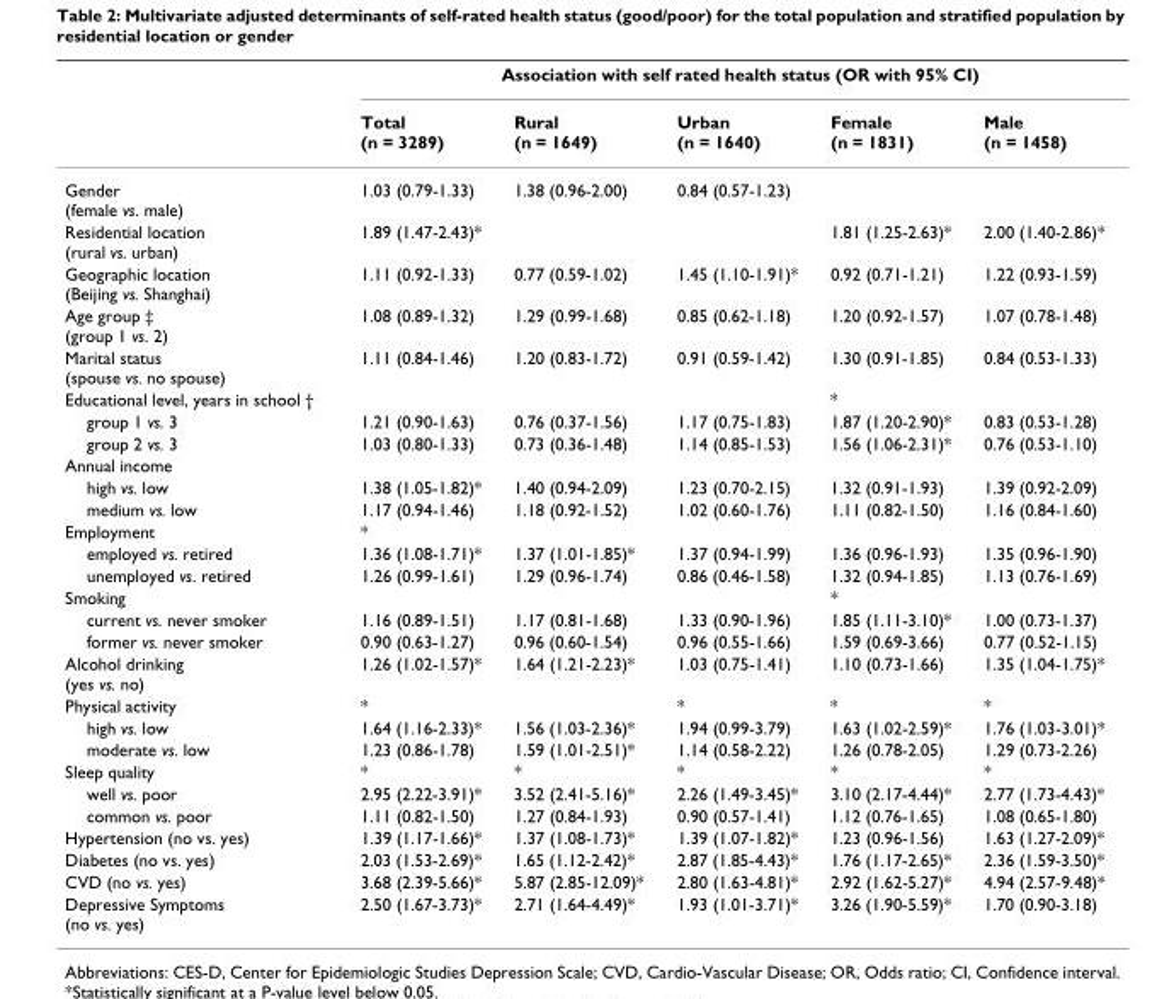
<table><thead><tr><td rowspan="2"></td><td colspan="5">Association with self rated health status (OR with 95% CI)</td></tr><tr><td>Total (n = 3289)</td><td>Rural (n = 1649)</td><td>Urban (n = 1640)</td><td>Female (n = 1831)</td><td>Male (n = 1458)</td></tr></thead><tbody><tr><td>Gender (female vs. male)</td><td>1.03 (0.79-1.33)</td><td>1.38 (0.96-2.00)</td><td>0.84 (0.57-1.23)</td><td></td><td></td></tr><tr><td>Residential location (rural vs. urban)</td><td>1.89 (1.47-2.43)*</td><td></td><td></td><td>1.81 (1.25-2.63)*</td><td>2.00 (1.40-2.86)*</td></tr><tr><td>Geographic location (Beijing vs. Shanghai)</td><td>1.11 (0.92-1.33)</td><td>0.77 (0.59-1.02)</td><td>1.45 (1.10-1.91)*</td><td>0.92 (0.71-1.21)</td><td>1.22 (0.93-1.59)</td></tr><tr><td>Age group ‡ (group 1 vs. 2)</td><td>1.08 (0.89-1.32)</td><td>1.29 (0.99-1.68)</td><td>0.85 (0.62-1.18)</td><td>1.20 (0.92-1.57)</td><td>1.07 (0.78-1.48)</td></tr><tr><td>Marital status (spouse vs. no spouse)</td><td>1.11 (0.84-1.46)</td><td>1.20 (0.83-1.72)</td><td>0.91 (0.59-1.42)</td><td>1.30 (0.91-1.85)</td><td>0.84 (0.53-1.33)</td></tr><tr><td>Educational level, years in school †</td><td></td><td></td><td></td><td>*</td><td></td></tr><tr><td>group 1 vs. 3</td><td>1.21 (0.90-1.63)</td><td>0.76 (0.37-1.56)</td><td>1.17 (0.75-1.83)</td><td>1.87 (1.20-2.90)*</td><td>0.83 (0.53-1.28)</td></tr><tr><td>group 2 vs. 3</td><td>1.03 (0.80-1.33)</td><td>0.73 (0.36-1.48)</td><td>1.14 (0.85-1.53)</td><td>1.56 (1.06-2.31)*</td><td>0.76 (0.53-1.10)</td></tr><tr><td colspan="6">Annual income</td></tr><tr><td>high vs. low</td><td>1.38 (1.05-1.82)*</td><td>1.40 (0.94-2.09)</td><td>1.23 (0.70-2.15)</td><td>1.32 (0.91-1.93)</td><td>1.39 (0.92-2.09)</td></tr><tr><td>medium vs. low</td><td>1.17 (0.94-1.46)</td><td>1.18 (0.92-1.52)</td><td>1.02 (0.60-1.76)</td><td>1.11 (0.82-1.50)</td><td>1.16 (0.84-1.60)</td></tr><tr><td>Employment</td><td>*</td><td></td><td></td><td></td><td></td></tr><tr><td>employed vs. retired</td><td>1.36 (1.08-1.71)*</td><td>1.37 (1.01-1.85)*</td><td>1.37 (0.94-1.99)</td><td>1.36 (0.96-1.93)</td><td>1.35 (0.96-1.90)</td></tr><tr><td>unemployed vs. retired</td><td>1.26 (0.99-1.61)</td><td>1.29 (0.96-1.74)</td><td>0.86 (0.46-1.58)</td><td>1.32 (0.94-1.85)</td><td>1.13 (0.76-1.69)</td></tr><tr><td>Smoking</td><td></td><td></td><td></td><td>*</td><td></td></tr><tr><td>current vs. never smoker</td><td>1.16 (0.89-1.51)</td><td>1.17 (0.81-1.68)</td><td>1.33 (0.90-1.96)</td><td>1.85 (1.11-3.10)*</td><td>1.00 (0.73-1.37)</td></tr><tr><td>former vs. never smoker</td><td>0.90 (0.63-1.27)</td><td>0.96 (0.60-1.54)</td><td>0.96 (0.55-1.66)</td><td>1.59 (0.69-3.66)</td><td>0.77 (0.52-1.15)</td></tr><tr><td>Alcohol drinking (yes vs. no)</td><td>1.26 (1.02-1.57)*</td><td>1.64 (1.21-2.23)*</td><td>1.03 (0.75-1.41)</td><td>1.10 (0.73-1.66)</td><td>1.35 (1.04-1.75)*</td></tr><tr><td>Physical activity</td><td>*</td><td></td><td>*</td><td>*</td><td>*</td></tr><tr><td>high vs. low</td><td>1.64 (1.16-2.33)*</td><td>1.56 (1.03-2.36)*</td><td>1.94 (0.99-3.79)</td><td>1.63 (1.02-2.59)*</td><td>1.76 (1.03-3.01)*</td></tr><tr><td>moderate vs. low</td><td>1.23 (0.86-1.78)</td><td>1.59 (1.01-2.51)*</td><td>1.14 (0.58-2.22)</td><td>1.26 (0.78-2.05)</td><td>1.29 (0.73-2.26)</td></tr><tr><td>Sleep quality</td><td>*</td><td>*</td><td>*</td><td>*</td><td>*</td></tr><tr><td>well vs. poor</td><td>2.95 (2.22-3.91)*</td><td>3.52 (2.41-5.16)*</td><td>2.26 (1.49-3.45)*</td><td>3.10 (2.17-4.44)*</td><td>2.77 (1.73-4.43)*</td></tr><tr><td>common vs. poor</td><td>1.11 (0.82-1.50)</td><td>1.27 (0.84-1.93)</td><td>0.90 (0.57-1.41)</td><td>1.12 (0.76-1.65)</td><td>1.08 (0.65-1.80)</td></tr><tr><td>Hypertension (no vs. yes)</td><td>1.39 (1.17-1.66)*</td><td>1.37 (1.08-1.73)*</td><td>1.39 (1.07-1.82)*</td><td>1.23 (0.96-1.56)</td><td>1.63 (1.27-2.09)*</td></tr><tr><td>Diabetes (no vs. yes)</td><td>2.03 (1.53-2.69)*</td><td>1.65 (1.12-2.42)*</td><td>2.87 (1.85-4.43)*</td><td>1.76 (1.17-2.65)*</td><td>2.36 (1.59-3.50)*</td></tr><tr><td>CVD (no vs. yes)</td><td>3.68 (2.39-5.66)*</td><td>5.87 (2.85-12.09)*</td><td>2.80 (1.63-4.81)*</td><td>2.92 (1.62-5.27)*</td><td>4.94 (2.57-9.48)*</td></tr><tr><td>Depressive Symptoms (no vs. yes)</td><td>2.50 (1.67-3.73)*</td><td>2.71 (1.64-4.49)*</td><td>1.93 (1.01-3.71)*</td><td>3.26 (1.90-5.59)*</td><td>1.70 (0.90-3.18)</td></tr></tbody></table>